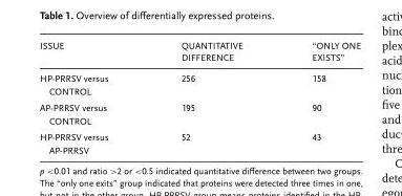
<table><thead><tr><td>ISSUE</td><td>QUANTITATIVE DIFFERENCE</td><td>“ONLY ONE EXISTS”</td></tr></thead><tbody><tr><td>HP-PRRSV versus CONTROL</td><td>256</td><td>158</td></tr><tr><td>AP-PRRSV versus CONTROL</td><td>195</td><td>90</td></tr><tr><td>HP-PRRSV versus AP-PRRSV</td><td>52</td><td>43</td></tr></tbody></table>